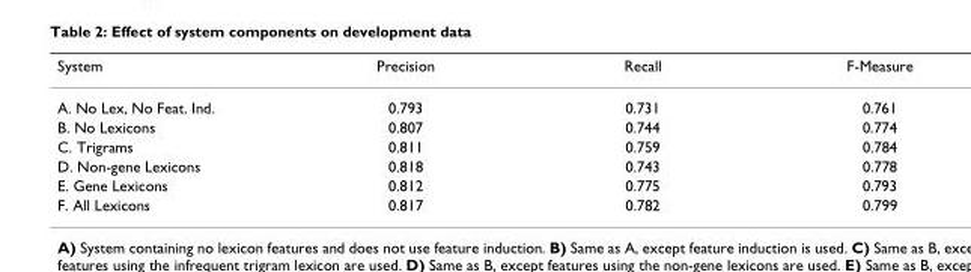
<table><thead><tr><td>System</td><td>Precision</td><td>Recall</td><td>F-Measure</td></tr></thead><tbody><tr><td>A. No Lex, No Feat. Ind.</td><td>0.793</td><td>0.731</td><td>0.761</td></tr><tr><td>B. No Lexicons</td><td>0.807</td><td>0.744</td><td>0.774</td></tr><tr><td>C. Trigrams</td><td>0.811</td><td>0.759</td><td>0.784</td></tr><tr><td>D. Non-gene Lexicons</td><td>0.818</td><td>0.743</td><td>0.778</td></tr><tr><td>E. Gene Lexicons</td><td>0.812</td><td>0.775</td><td>0.793</td></tr><tr><td>F. All Lexicons</td><td>0.817</td><td>0.782</td><td>0.799</td></tr></tbody></table>